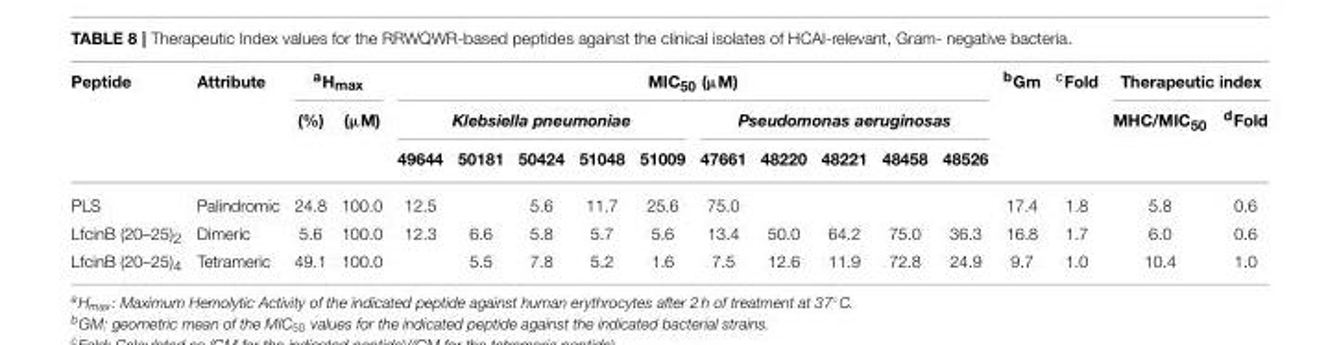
<table><thead><tr><td rowspan="3">Peptide</td><td rowspan="3">Attribute</td><td colspan="2"><sup>a</sup>H<sub>max</sub></td><td colspan="10">MIC<sub>50</sub> (µM)</td><td rowspan="3"><sup>b</sup>Gm</td><td rowspan="3"><sup>c</sup>Fold</td><td colspan="2">Therapeutic index</td></tr><tr><td rowspan="2">(%)</td><td rowspan="2">(µM)</td><td colspan="5">Klebsiella pneumoniae</td><td colspan="5">Pseudomonas aeruginosas</td><td rowspan="2">MHC/MIC<sub>50</sub></td><td rowspan="2"><sup>d</sup>Fold</td></tr><tr><td>49644</td><td>50181</td><td>50424</td><td>51048</td><td>51009</td><td>47661</td><td>48220</td><td>48221</td><td>48458</td><td>48526</td></tr></thead><tbody><tr><td>PLS</td><td>Palindromic</td><td>24.8</td><td>100.0</td><td>12.5</td><td></td><td>5.6</td><td>11.7</td><td>25.6</td><td>75.0</td><td></td><td></td><td></td><td></td><td>17.4</td><td>1.8</td><td>5.8</td><td>0.6</td></tr><tr><td>LfcinB (20–25)<sub>2</sub></td><td>Dimeric</td><td>5.6</td><td>100.0</td><td>12.3</td><td>6.6</td><td>5.8</td><td>5.7</td><td>5.6</td><td>13.4</td><td>50.0</td><td>64.2</td><td>75.0</td><td>36.3</td><td>16.8</td><td>1.7</td><td>6.0</td><td>0.6</td></tr><tr><td>LfcinB (20–25)<sub>4</sub></td><td>Tetrameric</td><td>49.1</td><td>100.0</td><td></td><td>5.5</td><td>7.8</td><td>5.2</td><td>1.6</td><td>7.5</td><td>12.6</td><td>11.9</td><td>72.8</td><td>24.9</td><td>9.7</td><td>1.0</td><td>10.4</td><td>1.0</td></tr></tbody></table>